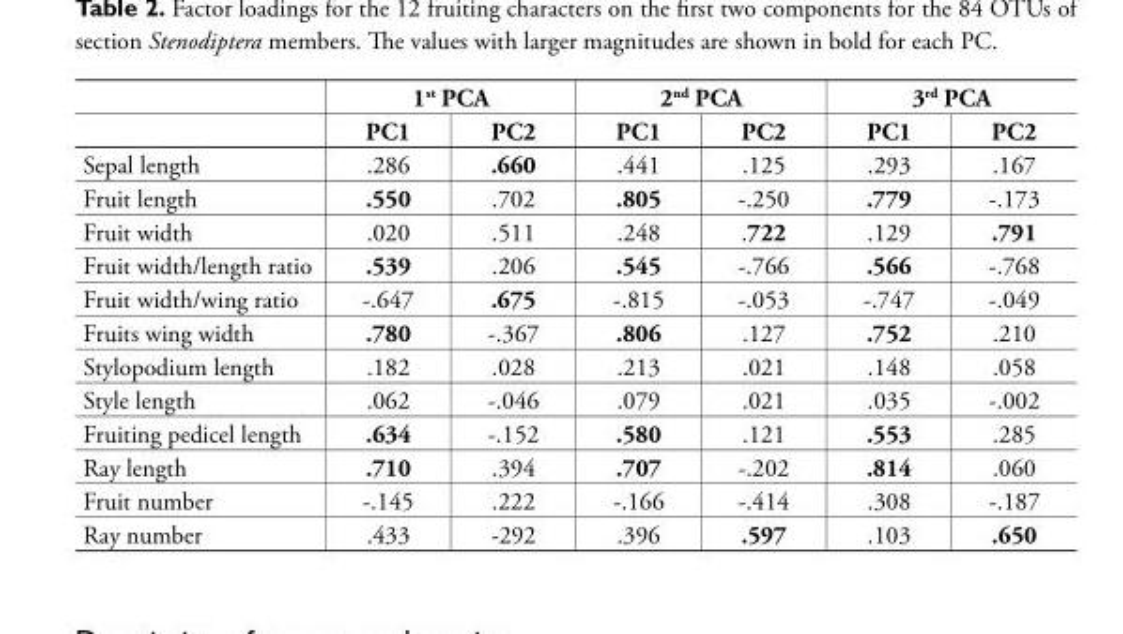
<table><thead><tr><td rowspan="2"></td><td colspan="2">1<sup>st</sup> PCA</td><td colspan="2">2<sup>nd</sup> PCA</td><td colspan="2">3<sup>rd</sup> PCA</td></tr><tr><td>PC1</td><td>PC2</td><td>PC1</td><td>PC2</td><td>PC1</td><td>PC2</td></tr></thead><tbody><tr><td>Sepal length</td><td>.286</td><td>.660</td><td>.441</td><td>.125</td><td>.293</td><td>.167</td></tr><tr><td>Fruit length</td><td>.550</td><td>.702</td><td>.805</td><td>-.250</td><td>.779</td><td>-.173</td></tr><tr><td>Fruit width</td><td>.020</td><td>.511</td><td>.248</td><td>.722</td><td>.129</td><td>.791</td></tr><tr><td>Fruit width/length ratio</td><td>.539</td><td>.206</td><td>.545</td><td>-.766</td><td>.566</td><td>-.768</td></tr><tr><td>Fruit width/wing ratio</td><td>-.647</td><td>.675</td><td>-.815</td><td>-.053</td><td>-.747</td><td>-.049</td></tr><tr><td>Fruits wing width</td><td>.780</td><td>-.367</td><td>.806</td><td>.127</td><td>.752</td><td>.210</td></tr><tr><td>Stylopodium length</td><td>.182</td><td>.028</td><td>.213</td><td>.021</td><td>.148</td><td>.058</td></tr><tr><td>Style length</td><td>.062</td><td>-.046</td><td>.079</td><td>.021</td><td>.035</td><td>-.002</td></tr><tr><td>Fruiting pedicel length</td><td>.634</td><td>-.152</td><td>.580</td><td>.121</td><td>.553</td><td>.285</td></tr><tr><td>Ray length</td><td>.710</td><td>.394</td><td>.707</td><td>-.202</td><td>.814</td><td>.060</td></tr><tr><td>Fruit number</td><td>-.145</td><td>.222</td><td>-.166</td><td>-.414</td><td>.308</td><td>-.187</td></tr><tr><td>Ray number</td><td>.433</td><td>-292</td><td>.396</td><td>.597</td><td>.103</td><td>.650</td></tr></tbody></table>